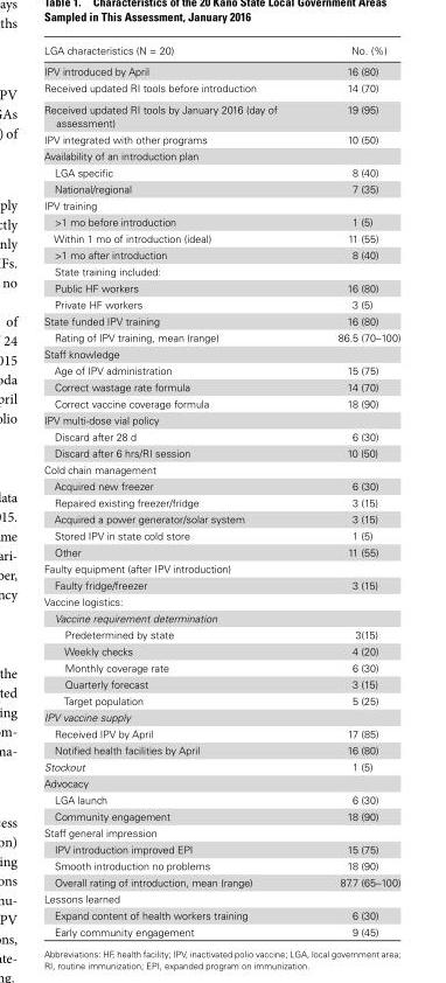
<table><thead><tr><td>LGA characteristics (N = 20)</td><td>No. (%)</td></tr></thead><tbody><tr><td>IPV introduced by April</td><td>16 (80)</td></tr><tr><td>Received updated RI tools before introduction</td><td>14 (70)</td></tr><tr><td>Received updated RI tools by January 2016 (day of assessment)</td><td>19 (95)</td></tr><tr><td>IPV integrated with other programs</td><td>10 (50)</td></tr><tr><td colspan="2">Availability of an introduction plan</td></tr><tr><td>LGA specific</td><td>8 (40)</td></tr><tr><td>National/regional</td><td>7 (35)</td></tr><tr><td colspan="2">IPV training</td></tr><tr><td>&gt;1 mo before introduction</td><td>1 (5)</td></tr><tr><td>Within 1 mo of introduction (ideal)</td><td>11 (55)</td></tr><tr><td>&gt;1 mo after introduction</td><td>8 (40)</td></tr><tr><td colspan="2">State training included:</td></tr><tr><td>Public HF workers</td><td>16 (80)</td></tr><tr><td>Private HF workers</td><td>3 (5)</td></tr><tr><td>State funded IPV training</td><td>16 (80)</td></tr><tr><td>Rating of IPV training, mean (range)</td><td>86.5 (70–100)</td></tr><tr><td colspan="2">Staff knowledge</td></tr><tr><td>Age of IPV administration</td><td>15 (75)</td></tr><tr><td>Correct wastage rate formula</td><td>14 (70)</td></tr><tr><td>Correct vaccine coverage formula</td><td>18 (90)</td></tr><tr><td colspan="2">IPV multi-dose vial policy</td></tr><tr><td>Discard after 28 d</td><td>6 (30)</td></tr><tr><td>Discard after 6 hrs/RI session</td><td>10 (50)</td></tr><tr><td colspan="2">Cold chain management</td></tr><tr><td>Acquired new freezer</td><td>6 (30)</td></tr><tr><td>Repaired existing freezer/fridge</td><td>3 (15)</td></tr><tr><td>Acquired a power generator/solar system</td><td>3 (15)</td></tr><tr><td>Stored IPV in state cold store</td><td>1 (5)</td></tr><tr><td>Other</td><td>11 (55)</td></tr><tr><td colspan="2">Faulty equipment (after IPV introduction)</td></tr><tr><td>Faulty fridge/freezer</td><td>3 (15)</td></tr><tr><td colspan="2">Vaccine logistics:</td></tr><tr><td colspan="2">Vaccine requirement determination</td></tr><tr><td>Predetermined by state</td><td>3(15)</td></tr><tr><td>Weekly checks</td><td>4 (20)</td></tr><tr><td>Monthly coverage rate</td><td>6 (30)</td></tr><tr><td>Quarterly forecast</td><td>3 (15)</td></tr><tr><td>Target population</td><td>5 (25)</td></tr><tr><td colspan="2">IPV vaccine supply</td></tr><tr><td>Received IPV by April</td><td>17 (85)</td></tr><tr><td>Notified health facilities by April</td><td>16 (80)</td></tr><tr><td>Stockout</td><td>1 (5)</td></tr><tr><td colspan="2">Advocacy</td></tr><tr><td>LGA launch</td><td>6 (30)</td></tr><tr><td>Community engagement</td><td>18 (90)</td></tr><tr><td colspan="2">Staff general impression</td></tr><tr><td>IPV introduction improved EPI</td><td>15 (75)</td></tr><tr><td>Smooth introduction no problems</td><td>18 (90)</td></tr><tr><td>Overall rating of introduction, mean (range)</td><td>87.7 (65–100)</td></tr><tr><td colspan="2">Lessons learned</td></tr><tr><td>Expand content of health workers training</td><td>6 (30)</td></tr><tr><td>Early community engagement</td><td>9 (45)</td></tr></tbody></table>